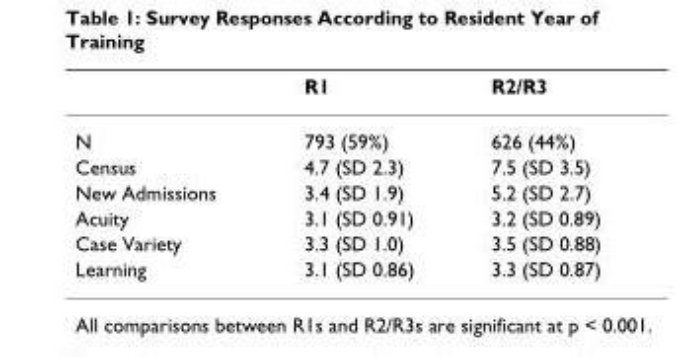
<table><thead><tr><td></td><td>R1</td><td>R2/R3</td></tr></thead><tbody><tr><td>N</td><td>793 (59%)</td><td>626 (44%)</td></tr><tr><td>Census</td><td>4.7 (SD 2.3)</td><td>7.5 (SD 3.5)</td></tr><tr><td>New Admissions</td><td>3.4 (SD 1.9)</td><td>5.2 (SD 2.7)</td></tr><tr><td>Acuity</td><td>3.1 (SD 0.91)</td><td>3.2 (SD 0.89)</td></tr><tr><td>Case Variety</td><td>3.3 (SD 1.0)</td><td>3.5 (SD 0.88)</td></tr><tr><td>Learning</td><td>3.1 (SD 0.86)</td><td>3.3 (SD 0.87)</td></tr></tbody></table>